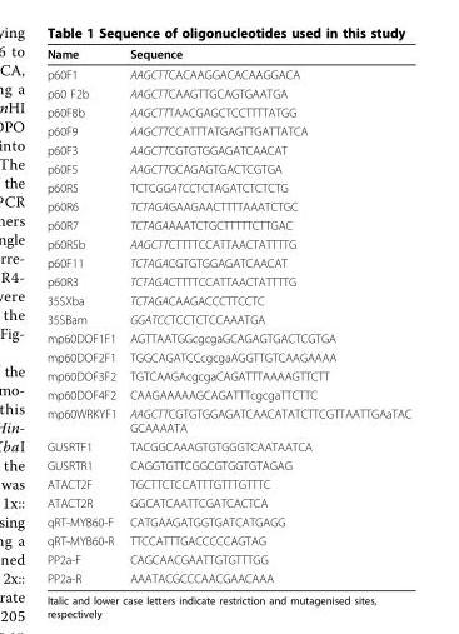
<table><thead><tr><td>Name</td><td>Sequence</td></tr></thead><tbody><tr><td>p60F1</td><td>AAGCTTCACAAGGACACAAGGACA</td></tr><tr><td>p60 F2b</td><td>AAGCTTCAAGTTGCAGTGAATGA</td></tr><tr><td>p60F8b</td><td>AAGCTTTAACGAGCTCCTTTTATGG</td></tr><tr><td>p60F9</td><td>AAGCTTCCATTTATGAGTTGATTATCA</td></tr><tr><td>p60F3</td><td>AAGCTTCGTGTGGAGATCAACAT</td></tr><tr><td>p60F5</td><td>AAGCTTGCAGAGTGACTCGTGA</td></tr><tr><td>p60R5</td><td>TCTCGGATCCTCTAGATCTCTCTG</td></tr><tr><td>p60R6</td><td>TCTAGAGAAGAACTTTTAAATCTGC</td></tr><tr><td>p60R7</td><td>TCTAGAAAATCTGCTTTTTCTTGAC</td></tr><tr><td>p60R5b</td><td>AAGCTTCTTTTCCATTAACTATTTTG</td></tr><tr><td>p60F11</td><td>TCTAGACGTGTGGAGATCAACAT</td></tr><tr><td>p60R3</td><td>TCTAGACTTTTCCATTAACTATTTTG</td></tr><tr><td>35SXba</td><td>TCTAGACAAGACCCTTCCTC</td></tr><tr><td>35SBam</td><td>GGATCCTCCTCTCCAAATGA</td></tr><tr><td>mp60DOF1F1</td><td>AGTTAATGGcgcgaGCAGAGTGACTCGTGA</td></tr><tr><td>mp60DOF2F1</td><td>TGGCAGATCCcgcgaAGGTTGTCAAGAAAA</td></tr><tr><td>mp60DOF3F2</td><td>TGTCAAGAcgcgaCAGATTTAAAAGTTCTT</td></tr><tr><td>mp60DOF4F2</td><td>CAAGAAAAAGCAGATTTcgcgaTTCTTC</td></tr><tr><td>mp60WRKYF1</td><td>AAGCTTCGTGTGGAGATCAACATATCTTCGTTAATTGAaTAC GCAAAATA</td></tr><tr><td>GUSRTF1</td><td>TACGGCAAAGTGTGGGTCAATAATCA</td></tr><tr><td>GUSRTR1</td><td>CAGGTGTTCGGCGTGGTGTAGAG</td></tr><tr><td>ATACT2F</td><td>TGCTTCTCCATTTGTTTGTTTC</td></tr><tr><td>ATACT2R</td><td>GGCATCAATTCGATCACTCA</td></tr><tr><td>qRT-MYB60-F</td><td>CATGAAGATGGTGATCATGAGG</td></tr><tr><td>qRT-MYB60-R</td><td>TTCCATTTGACCCCCAGTAG</td></tr><tr><td>PP2a-F</td><td>CAGCAACGAATTGTGTTTGG</td></tr><tr><td>PP2a-R</td><td>AAATACGCCCAACGAACAAA</td></tr></tbody></table>